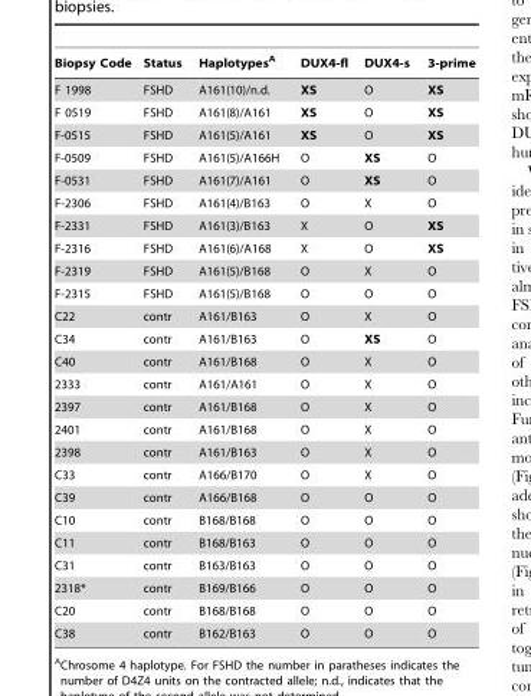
<table><thead><tr><td>Biopsy Code</td><td>Status</td><td>Haplotypes<sup>A</sup></td><td>DUX4-fl</td><td>DUX4-s</td><td>3-prime</td></tr></thead><tbody><tr><td>F 1998</td><td>FSHD</td><td>A161(10)/n.d.</td><td>XS</td><td>O</td><td>XS</td></tr><tr><td>F 0519</td><td>FSHD</td><td>A161(8)/A161</td><td>XS</td><td>O</td><td>XS</td></tr><tr><td>F-0515</td><td>FSHD</td><td>A161(5)/A161</td><td>XS</td><td>O</td><td>XS</td></tr><tr><td>F-0509</td><td>FSHD</td><td>A161(5)/A166H</td><td>O</td><td>XS</td><td>O</td></tr><tr><td>F-0531</td><td>FSHD</td><td>A161(7)/A161</td><td>O</td><td>XS</td><td>O</td></tr><tr><td>F-2306</td><td>FSHD</td><td>A161(4)/B163</td><td>O</td><td>X</td><td>O</td></tr><tr><td>F-2331</td><td>FSHD</td><td>A161(3)/B163</td><td>X</td><td>O</td><td>XS</td></tr><tr><td>F-2316</td><td>FSHD</td><td>A161(6)/A168</td><td>X</td><td>O</td><td>XS</td></tr><tr><td>F-2319</td><td>FSHD</td><td>A161(5)/B168</td><td>O</td><td>X</td><td>O</td></tr><tr><td>F-2315</td><td>FSHD</td><td>A161(5)/B168</td><td>O</td><td>O</td><td>O</td></tr><tr><td>C22</td><td>contr</td><td>A161/B163</td><td>O</td><td>X</td><td>O</td></tr><tr><td>C34</td><td>contr</td><td>A161/B163</td><td>O</td><td>XS</td><td>O</td></tr><tr><td>C40</td><td>contr</td><td>A161/B168</td><td>O</td><td>X</td><td>O</td></tr><tr><td>2333</td><td>contr</td><td>A161/A161</td><td>O</td><td>X</td><td>O</td></tr><tr><td>2397</td><td>contr</td><td>A161/B168</td><td>O</td><td>X</td><td>O</td></tr><tr><td>2401</td><td>contr</td><td>A161/B168</td><td>O</td><td>X</td><td>O</td></tr><tr><td>2398</td><td>contr</td><td>A161/B163</td><td>O</td><td>X</td><td>O</td></tr><tr><td>C33</td><td>contr</td><td>A166/B170</td><td>O</td><td>X</td><td>O</td></tr><tr><td>C39</td><td>contr</td><td>A166/B168</td><td>O</td><td>O</td><td>O</td></tr><tr><td>C10</td><td>contr</td><td>B168/B168</td><td>O</td><td>O</td><td>O</td></tr><tr><td>C11</td><td>contr</td><td>B168/B163</td><td>O</td><td>O</td><td>O</td></tr><tr><td>C31</td><td>contr</td><td>B163/B163</td><td>O</td><td>O</td><td>O</td></tr><tr><td>2318*</td><td>contr</td><td>B169/B166</td><td>O</td><td>O</td><td>O</td></tr><tr><td>C20</td><td>contr</td><td>B168/B168</td><td>O</td><td>O</td><td>O</td></tr><tr><td>C38</td><td>contr</td><td>B162/B163</td><td>O</td><td>O</td><td>O</td></tr></tbody></table>